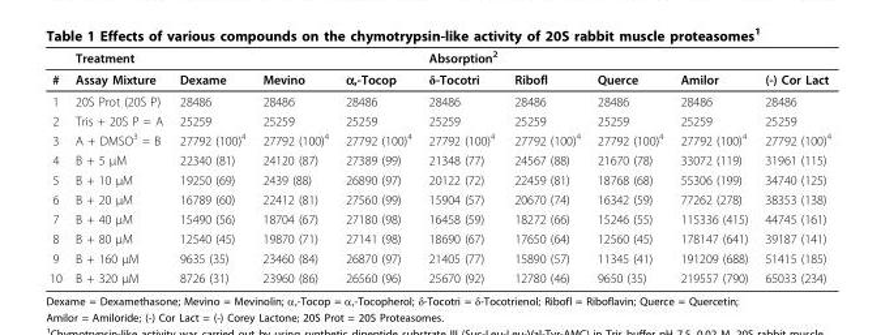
<table><thead><tr><td></td><td>Treatment</td><td></td><td></td><td></td><td>Absorption<sup>2</sup></td><td></td><td></td><td></td><td></td></tr></thead><tbody><tr><td>#</td><td>Assay Mixture</td><td>Dexame</td><td>Mevino</td><td>α,-Tocop</td><td>δ-Tocotri</td><td>Ribofl</td><td>Querce</td><td>Amilor</td><td>(-) Cor Lact</td></tr><tr><td>1</td><td>20S Prot (20S P)</td><td>28486</td><td>28486</td><td>28486</td><td>28486</td><td>28486</td><td>28486</td><td>28486</td><td>28486</td></tr><tr><td>2</td><td>Tris + 20S P = A</td><td>25259</td><td>25259</td><td>25259</td><td>25259</td><td>25259</td><td>25259</td><td>25259</td><td>25259</td></tr><tr><td>3</td><td>A + DMSO<sup>3</sup> = B</td><td>27792 (100)<sup>4</sup></td><td>27792 (100)<sup>4</sup></td><td>27792 (100)<sup>4</sup></td><td>27792 (100)<sup>4</sup></td><td>27792 (100)<sup>4</sup></td><td>27792 (100)<sup>4</sup></td><td>27792 (100)<sup>4</sup></td><td>27792 (100)<sup>4</sup></td></tr><tr><td>4</td><td>B + 5 μM</td><td>22340 (81)</td><td>24120 (87)</td><td>27389 (99)</td><td>21348 (77)</td><td>24567 (88)</td><td>21670 (78)</td><td>33072 (119)</td><td>31961 (115)</td></tr><tr><td>5</td><td>B + 10 μM</td><td>19250 (69)</td><td>2439 (88)</td><td>26890 (97)</td><td>20122 (72)</td><td>22459 (81)</td><td>18768 (68)</td><td>55306 (199)</td><td>34740 (125)</td></tr><tr><td>6</td><td>B + 20 μM</td><td>16789 (60)</td><td>22412 (81)</td><td>27560 (99)</td><td>15904 (57)</td><td>20670 (74)</td><td>16342 (59)</td><td>77262 (278)</td><td>38353 (138)</td></tr><tr><td>7</td><td>B + 40 μM</td><td>15490 (56)</td><td>18704 (67)</td><td>27180 (98)</td><td>16458 (59)</td><td>18272 (66)</td><td>15246 (55)</td><td>115336 (415)</td><td>44745 (161)</td></tr><tr><td>8</td><td>B + 80 μM</td><td>12540 (45)</td><td>19870 (71)</td><td>27141 (98)</td><td>18690 (67)</td><td>17650 (64)</td><td>12560 (45)</td><td>178147 (641)</td><td>39187 (141)</td></tr><tr><td>9</td><td>B + 160 μM</td><td>9635 (35)</td><td>23460 (84)</td><td>26870 (97)</td><td>21405 (77)</td><td>15890 (57)</td><td>11345 (41)</td><td>191209 (688)</td><td>51415 (185)</td></tr><tr><td>10</td><td>B + 320 μM</td><td>8726 (31)</td><td>23960 (86)</td><td>26560 (96)</td><td>25670 (92)</td><td>12780 (46)</td><td>9650 (35)</td><td>219557 (790)</td><td>65033 (234)</td></tr></tbody></table>